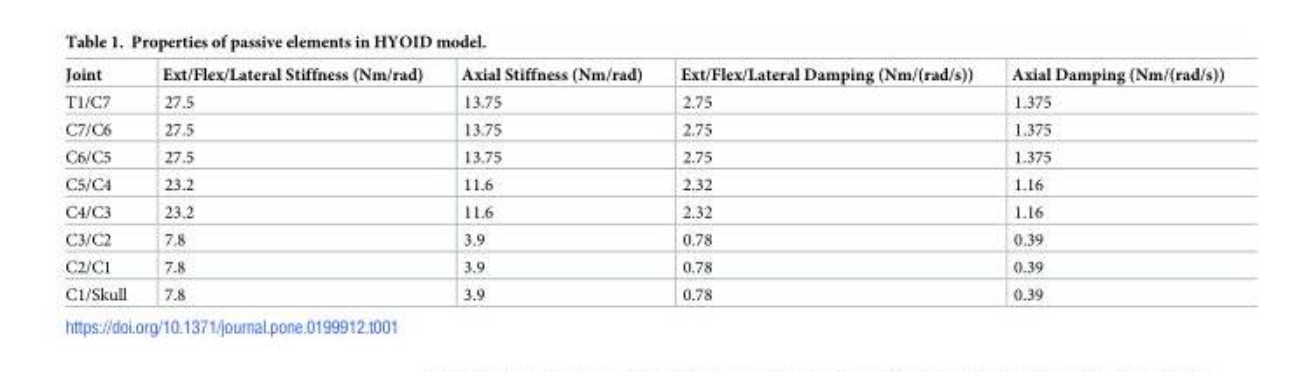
<table><thead><tr><td>Joint</td><td>Ext/Flex/Lateral Stiffness (Nm/rad)</td><td>Axial Stiffness (Nm/rad)</td><td>Ext/Flex/Lateral Damping (Nm/(rad/s))</td><td>Axial Damping (Nm/(rad/s))</td></tr></thead><tbody><tr><td>T1/C7</td><td>27.5</td><td>13.75</td><td>2.75</td><td>1.375</td></tr><tr><td>C7/C6</td><td>27.5</td><td>13.75</td><td>2.75</td><td>1.375</td></tr><tr><td>C6/C5</td><td>27.5</td><td>13.75</td><td>2.75</td><td>1.375</td></tr><tr><td>C5/C4</td><td>23.2</td><td>11.6</td><td>2.32</td><td>1.16</td></tr><tr><td>C4/C3</td><td>23.2</td><td>11.6</td><td>2.32</td><td>1.16</td></tr><tr><td>C3/C2</td><td>7.8</td><td>3.9</td><td>0.78</td><td>0.39</td></tr><tr><td>C2/C1</td><td>7.8</td><td>3.9</td><td>0.78</td><td>0.39</td></tr><tr><td>C1/Skull</td><td>7.8</td><td>3.9</td><td>0.78</td><td>0.39</td></tr></tbody></table>